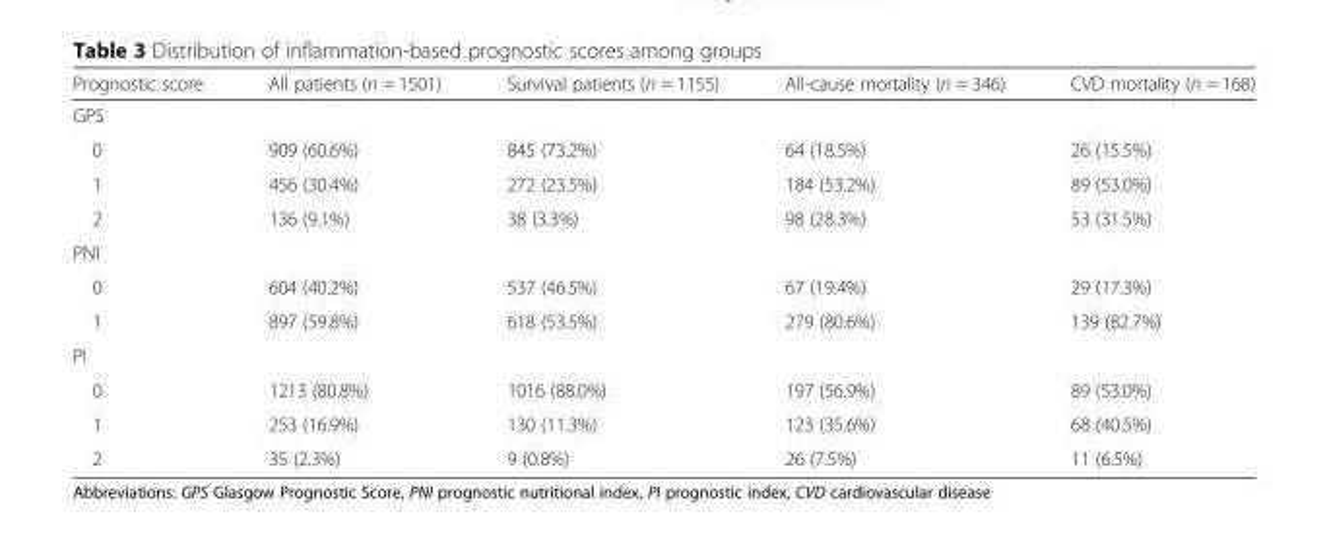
<table><thead><tr><td>Prognostic score</td><td>All patients (n = 1501)</td><td>Survival patients (n = 1155)</td><td>All-cause mortality (n = 346)</td><td>CVD mortality (n = 168)</td></tr></thead><tbody><tr><td colspan="5">GPS</td></tr><tr><td>0</td><td>909 (60.6%)</td><td>845 (73.2%)</td><td>64 (18.5%)</td><td>26 (15.5%)</td></tr><tr><td>1</td><td>456 (30.4%)</td><td>272 (23.5%)</td><td>184 (53.2%)</td><td>89 (53.0%)</td></tr><tr><td>2</td><td>136 (9.1%)</td><td>38 (3.3%)</td><td>98 (28.3%)</td><td>53 (31.5%)</td></tr><tr><td colspan="5">PNI</td></tr><tr><td>0</td><td>604 (40.2%)</td><td>537 (46.5%)</td><td>67 (19.4%)</td><td>29 (17.3%)</td></tr><tr><td>1</td><td>897 (59.8%)</td><td>618 (53.5%)</td><td>279 (80.6%)</td><td>139 (82.7%)</td></tr><tr><td colspan="5">PI</td></tr><tr><td>0</td><td>1213 (80.8%)</td><td>1016 (88.0%)</td><td>197 (56.9%)</td><td>89 (53.0%)</td></tr><tr><td>1</td><td>253 (16.9%)</td><td>130 (11.3%)</td><td>123 (35.6%)</td><td>68 (40.5%)</td></tr><tr><td>2</td><td>35 (2.3%)</td><td>9 (0.8%)</td><td>26 (7.5%)</td><td>11 (6.5%)</td></tr></tbody></table>